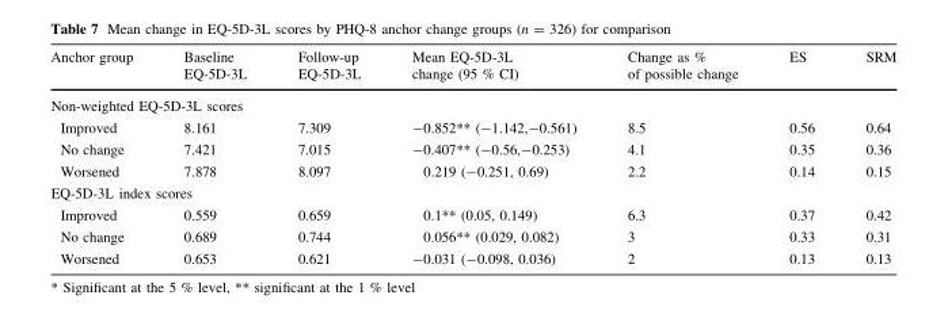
<table><thead><tr><td>Anchor group</td><td>Baseline EQ-5D-3L</td><td>Follow-up EQ-5D-3L</td><td>Mean EQ-5D-3L change (95 % CI)</td><td>Change as % of possible change</td><td>ES</td><td>SRM</td></tr></thead><tbody><tr><td colspan="7">Non-weighted EQ-5D-3L scores</td></tr><tr><td>Improved</td><td>8.161</td><td>7.309</td><td>-0.852** (-1.142,-0.561)</td><td>8.5</td><td>0.56</td><td>0.64</td></tr><tr><td>No change</td><td>7.421</td><td>7.015</td><td>-0.407** (-0.56,-0.253)</td><td>4.1</td><td>0.35</td><td>0.36</td></tr><tr><td>Worsened</td><td>7.878</td><td>8.097</td><td>0.219 (-0.251, 0.69)</td><td>2.2</td><td>0.14</td><td>0.15</td></tr><tr><td colspan="7">EQ-5D-3L index scores</td></tr><tr><td>Improved</td><td>0.559</td><td>0.659</td><td>0.1** (0.05, 0.149)</td><td>6.3</td><td>0.37</td><td>0.42</td></tr><tr><td>No change</td><td>0.689</td><td>0.744</td><td>0.056** (0.029, 0.082)</td><td>3</td><td>0.33</td><td>0.31</td></tr><tr><td>Worsened</td><td>0.653</td><td>0.621</td><td>-0.031 (-0.098, 0.036)</td><td>2</td><td>0.13</td><td>0.13</td></tr></tbody></table>